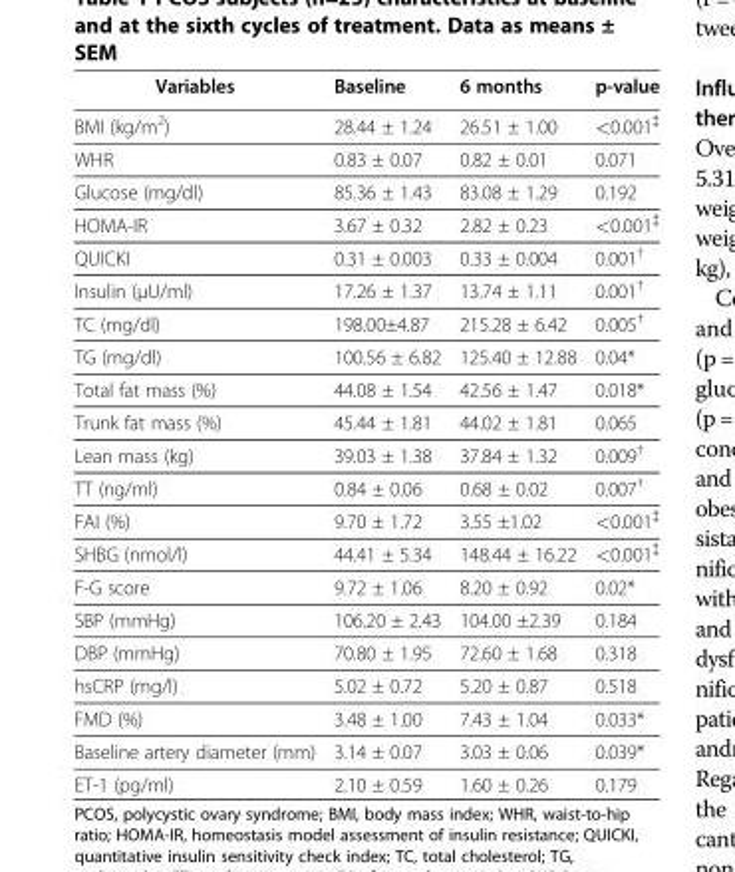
<table><thead><tr><td>Variables</td><td>Baseline</td><td>6 months</td><td>p-value</td></tr></thead><tbody><tr><td>BMI (kg/m<sup>2</sup>)</td><td>28.44 ± 1.24</td><td>26.51 ± 1.00</td><td>&lt;0.001<sup>‡</sup></td></tr><tr><td>WHR</td><td>0.83 ± 0.07</td><td>0.82 ± 0.01</td><td>0.071</td></tr><tr><td>Glucose (mg/dl)</td><td>85.36 ± 1.43</td><td>83.08 ± 1.29</td><td>0.192</td></tr><tr><td>HOMA-IR</td><td>3.67 ± 0.32</td><td>2.82 ± 0.23</td><td>&lt;0.001<sup>‡</sup></td></tr><tr><td>QUICKI</td><td>0.31 ± 0.003</td><td>0.33 ± 0.004</td><td>0.001<sup>†</sup></td></tr><tr><td>Insulin (μU/ml)</td><td>17.26 ± 1.37</td><td>13.74 ± 1.11</td><td>0.001<sup>†</sup></td></tr><tr><td>TC (mg/dl)</td><td>198.00±4.87</td><td>215.28 ± 6.42</td><td>0.005<sup>†</sup></td></tr><tr><td>TG (mg/dl)</td><td>100.56 ± 6.82</td><td>125.40 ± 12.88</td><td>0.04*</td></tr><tr><td>Total fat mass (%)</td><td>44.08 ± 1.54</td><td>42.56 ± 1.47</td><td>0.018*</td></tr><tr><td>Trunk fat mass (%)</td><td>45.44 ± 1.81</td><td>44.02 ± 1.81</td><td>0.065</td></tr><tr><td>Lean mass (kg)</td><td>39.03 ± 1.38</td><td>37.84 ± 1.32</td><td>0.009<sup>†</sup></td></tr><tr><td>TT (ng/ml)</td><td>0.84 ± 0.06</td><td>0.68 ± 0.02</td><td>0.007<sup>†</sup></td></tr><tr><td>FAI (%)</td><td>9.70 ± 1.72</td><td>3.55 ±1.02</td><td>&lt;0.001<sup>‡</sup></td></tr><tr><td>SHBG (nmol/l)</td><td>44.41 ± 5.34</td><td>148.44 ± 16.22</td><td>&lt;0.001<sup>‡</sup></td></tr><tr><td>F-G score</td><td>9.72 ± 1.06</td><td>8.20 ± 0.92</td><td>0.02*</td></tr><tr><td>SBP (mmHg)</td><td>106.20 ± 2.43</td><td>104.00 ±2.39</td><td>0.184</td></tr><tr><td>DBP (mmHg)</td><td>70.80 ± 1.95</td><td>72.60 ± 1.68</td><td>0.318</td></tr><tr><td>hsCRP (mg/l)</td><td>5.02 ± 0.72</td><td>5.20 ± 0.87</td><td>0.518</td></tr><tr><td>FMD (%)</td><td>3.48 ± 1.00</td><td>7.43 ± 1.04</td><td>0.033*</td></tr><tr><td>Baseline artery diameter (mm)</td><td>3.14 ± 0.07</td><td>3.03 ± 0.06</td><td>0.039*</td></tr><tr><td>ET-1 (pg/ml)</td><td>2.10 ± 0.59</td><td>1.60 ± 0.26</td><td>0.179</td></tr></tbody></table>